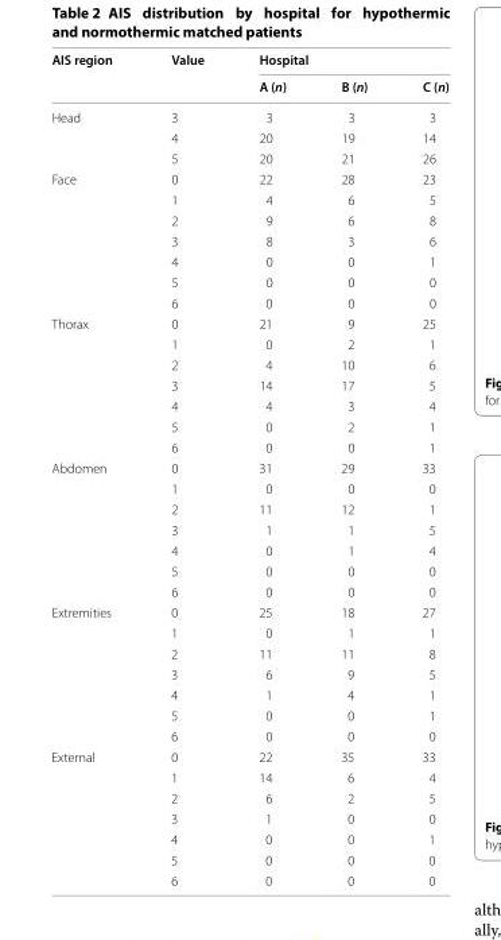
<table><thead><tr><td rowspan="2">AIS region</td><td rowspan="2">Value</td><td colspan="3">Hospital</td></tr><tr><td>A (n)</td><td>B (n)</td><td>C (n)</td></tr></thead><tbody><tr><td rowspan="3">Head</td><td>3</td><td>3</td><td>3</td><td>3</td></tr><tr><td>4</td><td>20</td><td>19</td><td>14</td></tr><tr><td>5</td><td>20</td><td>21</td><td>26</td></tr><tr><td rowspan="7">Face</td><td>0</td><td>22</td><td>28</td><td>23</td></tr><tr><td>1</td><td>4</td><td>6</td><td>5</td></tr><tr><td>2</td><td>9</td><td>6</td><td>8</td></tr><tr><td>3</td><td>8</td><td>3</td><td>6</td></tr><tr><td>4</td><td>0</td><td>0</td><td>1</td></tr><tr><td>5</td><td>0</td><td>0</td><td>0</td></tr><tr><td>6</td><td>0</td><td>0</td><td>0</td></tr><tr><td rowspan="7">Thorax</td><td>0</td><td>21</td><td>9</td><td>25</td></tr><tr><td>1</td><td>0</td><td>2</td><td>1</td></tr><tr><td>2</td><td>4</td><td>10</td><td>6</td></tr><tr><td>3</td><td>14</td><td>17</td><td>5</td></tr><tr><td>4</td><td>4</td><td>3</td><td>4</td></tr><tr><td>5</td><td>0</td><td>2</td><td>1</td></tr><tr><td>6</td><td>0</td><td>0</td><td>1</td></tr><tr><td rowspan="7">Abdomen</td><td>0</td><td>31</td><td>29</td><td>33</td></tr><tr><td>1</td><td>0</td><td>0</td><td>0</td></tr><tr><td>2</td><td>11</td><td>12</td><td>1</td></tr><tr><td>3</td><td>1</td><td>1</td><td>5</td></tr><tr><td>4</td><td>0</td><td>1</td><td>4</td></tr><tr><td>5</td><td>0</td><td>0</td><td>0</td></tr><tr><td>6</td><td>0</td><td>0</td><td>0</td></tr><tr><td rowspan="7">Extremities</td><td>0</td><td>25</td><td>18</td><td>27</td></tr><tr><td>1</td><td>0</td><td>1</td><td>1</td></tr><tr><td>2</td><td>11</td><td>11</td><td>8</td></tr><tr><td>3</td><td>6</td><td>9</td><td>5</td></tr><tr><td>4</td><td>1</td><td>4</td><td>1</td></tr><tr><td>5</td><td>0</td><td>0</td><td>1</td></tr><tr><td>6</td><td>0</td><td>0</td><td>0</td></tr><tr><td rowspan="7">External</td><td>0</td><td>22</td><td>35</td><td>33</td></tr><tr><td>1</td><td>14</td><td>6</td><td>4</td></tr><tr><td>2</td><td>6</td><td>2</td><td>5</td></tr><tr><td>3</td><td>1</td><td>0</td><td>0</td></tr><tr><td>4</td><td>0</td><td>0</td><td>1</td></tr><tr><td>5</td><td>0</td><td>0</td><td>0</td></tr><tr><td>6</td><td>0</td><td>0</td><td>0</td></tr></tbody></table>